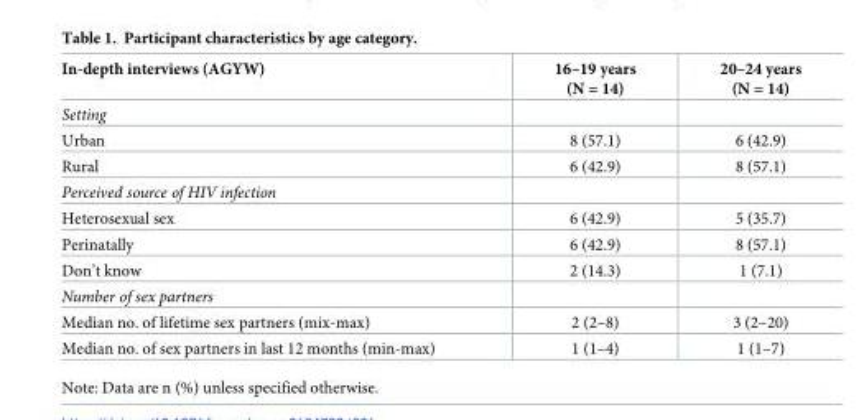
<table><thead><tr><td>In-depth interviews (AGYW)</td><td>16–19 years (N = 14)</td><td>20–24 years (N = 14)</td></tr></thead><tbody><tr><td colspan="3">Setting</td></tr><tr><td>Urban</td><td>8 (57.1)</td><td>6 (42.9)</td></tr><tr><td>Rural</td><td>6 (42.9)</td><td>8 (57.1)</td></tr><tr><td colspan="3">Perceived source of HIV infection</td></tr><tr><td>Heterosexual sex</td><td>6 (42.9)</td><td>5 (35.7)</td></tr><tr><td>Perinatally</td><td>6 (42.9)</td><td>8 (57.1)</td></tr><tr><td>Don’t know</td><td>2 (14.3)</td><td>1 (7.1)</td></tr><tr><td colspan="3">Number of sex partners</td></tr><tr><td>Median no. of lifetime sex partners (mix-max)</td><td>2 (2–8)</td><td>3 (2–20)</td></tr><tr><td>Median no. of sex partners in last 12 months (min-max)</td><td>1 (1–4)</td><td>1 (1–7)</td></tr></tbody></table>